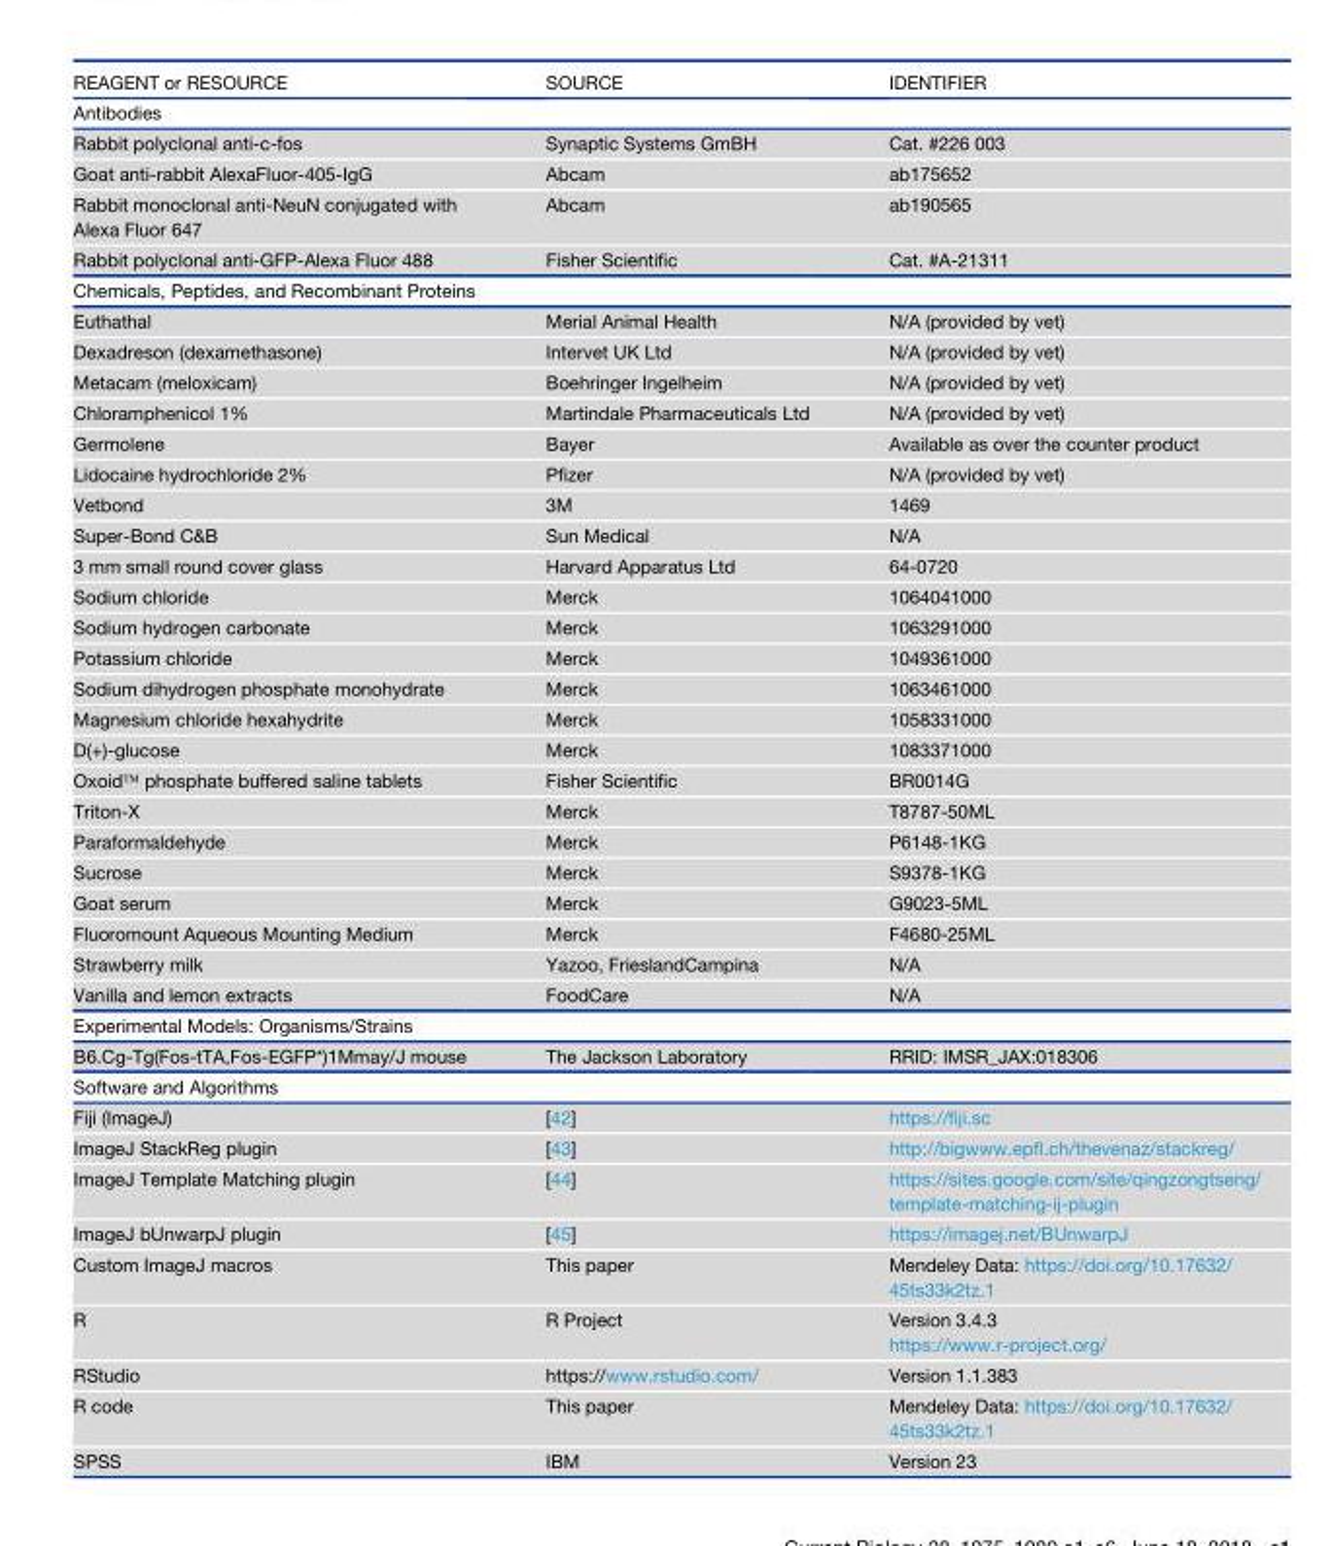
<table><thead><tr><td>REAGENT or RESOURCE</td><td>SOURCE</td><td>IDENTIFIER</td></tr></thead><tbody><tr><td colspan="3">Antibodies</td></tr><tr><td>Rabbit polyclonal anti-c-fos</td><td>Synaptic Systems GmBH</td><td>Cat. #226 003</td></tr><tr><td>Goat anti-rabbit AlexaFluor-405-IgG</td><td>Abcam</td><td>ab175652</td></tr><tr><td>Rabbit monoclonal anti-NeuN conjugated with Alexa Fluor 647</td><td>Abcam</td><td>ab190565</td></tr><tr><td>Rabbit polyclonal anti-GFP-Alexa Fluor 488</td><td>Fisher Scientific</td><td>Cat. #A-21311</td></tr><tr><td colspan="3">Chemicals, Peptides, and Recombinant Proteins</td></tr><tr><td>Euthathal</td><td>Merial Animal Health</td><td>N/A (provided by vet)</td></tr><tr><td>Dexadreson (dexamethasone)</td><td>Intervet UK Ltd</td><td>N/A (provided by vet)</td></tr><tr><td>Metacam (meloxicam)</td><td>Boehringer Ingelheim</td><td>N/A (provided by vet)</td></tr><tr><td>Chloramphenicol 1%</td><td>Martindale Pharmaceuticals Ltd</td><td>N/A (provided by vet)</td></tr><tr><td>Germolene</td><td>Bayer</td><td>Available as over the counter product</td></tr><tr><td>Lidocaine hydrochloride 2%</td><td>Pfizer</td><td>N/A (provided by vet)</td></tr><tr><td>Vetbond</td><td>3M</td><td>1469</td></tr><tr><td>Super-Bond C&amp;B</td><td>Sun Medical</td><td>N/A</td></tr><tr><td>3 mm small round cover glass</td><td>Harvard Apparatus Ltd</td><td>64-0720</td></tr><tr><td>Sodium chloride</td><td>Merck</td><td>1064041000</td></tr><tr><td>Sodium hydrogen carbonate</td><td>Merck</td><td>1063291000</td></tr><tr><td>Potassium chloride</td><td>Merck</td><td>1049361000</td></tr><tr><td>Sodium dihydrogen phosphate monohydrate</td><td>Merck</td><td>1063461000</td></tr><tr><td>Magnesium chloride hexahydrite</td><td>Merck</td><td>1058331000</td></tr><tr><td>D(+)-glucose</td><td>Merck</td><td>1083371000</td></tr><tr><td>Oxoid™ phosphate buffered saline tablets</td><td>Fisher Scientific</td><td>BR0014G</td></tr><tr><td>Triton-X</td><td>Merck</td><td>T8787-50ML</td></tr><tr><td>Paraformaldehyde</td><td>Merck</td><td>P6148-1KG</td></tr><tr><td>Sucrose</td><td>Merck</td><td>S9378-1KG</td></tr><tr><td>Goat serum</td><td>Merck</td><td>G9023-5ML</td></tr><tr><td>Fluoromount Aqueous Mounting Medium</td><td>Merck</td><td>F4680-25ML</td></tr><tr><td>Strawberry milk</td><td>Yazoo, FrieslandCampina</td><td>N/A</td></tr><tr><td>Vanilla and lemon extracts</td><td>FoodCare</td><td>N/A</td></tr><tr><td colspan="3">Experimental Models: Organisms/Strains</td></tr><tr><td>B6.Cg-Tg(Fos-tTA,Fos-EGFP*)1Mmay/J mouse</td><td>The Jackson Laboratory</td><td>RRID: IMSR_JAX:018306</td></tr><tr><td colspan="3">Software and Algorithms</td></tr><tr><td>Fiji (ImageJ)</td><td>[42]</td><td>https://fiji.sc</td></tr><tr><td>ImageJ StackReg plugin</td><td>[43]</td><td>http://bigwww.epfl.ch/thevenaz/stackreg/</td></tr><tr><td>ImageJ Template Matching plugin</td><td>[44]</td><td>https://sites.google.com/site/qingzongtseng/ template-matching-ij-plugin</td></tr><tr><td>ImageJ bUnwarpJ plugin</td><td>[45]</td><td>https://imagej.net/BUnwarpJ</td></tr><tr><td>Custom ImageJ macros</td><td>This paper</td><td>Mendeley Data: https://doi.org/10.17632/ 45ts33k2tz.1</td></tr><tr><td>R</td><td>R Project</td><td>Version 3.4.3 https://www.r-project.org/</td></tr><tr><td>RStudio</td><td>https://www.rstudio.com/</td><td>Version 1.1.383</td></tr><tr><td>R code</td><td>This paper</td><td>Mendeley Data: https://doi.org/10.17632/ 45ts33k2tz.1</td></tr><tr><td>SPSS</td><td>IBM</td><td>Version 23</td></tr></tbody></table>